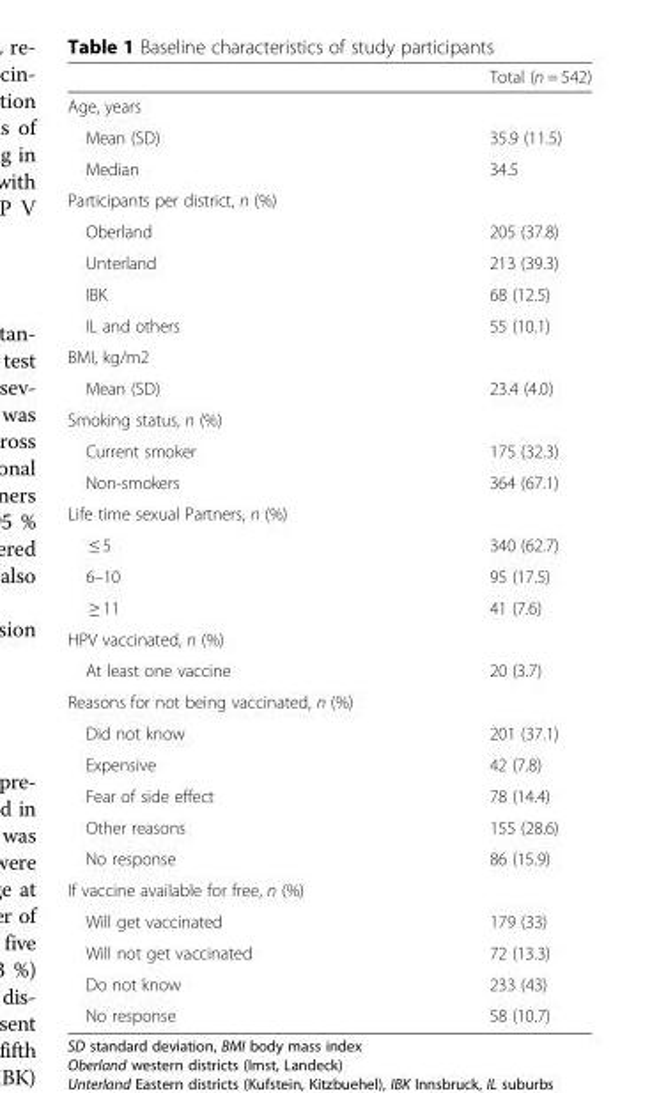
<table><thead><tr><td></td><td>Total (n = 542)</td></tr></thead><tbody><tr><td colspan="2">Age, years</td></tr><tr><td>Mean (SD)</td><td>35.9 (11.5)</td></tr><tr><td>Median</td><td>34.5</td></tr><tr><td colspan="2">Participants per district, n (%)</td></tr><tr><td>Oberland</td><td>205 (37.8)</td></tr><tr><td>Unterland</td><td>213 (39.3)</td></tr><tr><td>IBK</td><td>68 (12.5)</td></tr><tr><td>IL and others</td><td>55 (10.1)</td></tr><tr><td colspan="2">BMI, kg/m2</td></tr><tr><td>Mean (SD)</td><td>23.4 (4.0)</td></tr><tr><td colspan="2">Smoking status, n (%)</td></tr><tr><td>Current smoker</td><td>175 (32.3)</td></tr><tr><td>Non-smokers</td><td>364 (67.1)</td></tr><tr><td colspan="2">Life time sexual Partners, n (%)</td></tr><tr><td>≤ 5</td><td>340 (62.7)</td></tr><tr><td>6–10</td><td>95 (17.5)</td></tr><tr><td>≥ 11</td><td>41 (7.6)</td></tr><tr><td colspan="2">HPV vaccinated, n (%)</td></tr><tr><td>At least one vaccine</td><td>20 (3.7)</td></tr><tr><td colspan="2">Reasons for not being vaccinated, n (%)</td></tr><tr><td>Did not know</td><td>201 (37.1)</td></tr><tr><td>Expensive</td><td>42 (7.8)</td></tr><tr><td>Fear of side effect</td><td>78 (14.4)</td></tr><tr><td>Other reasons</td><td>155 (28.6)</td></tr><tr><td>No response</td><td>86 (15.9)</td></tr><tr><td colspan="2">If vaccine available for free, n (%)</td></tr><tr><td>Will get vaccinated</td><td>179 (33)</td></tr><tr><td>Will not get vaccinated</td><td>72 (13.3)</td></tr><tr><td>Do not know</td><td>233 (43)</td></tr><tr><td>No response</td><td>58 (10.7)</td></tr></tbody></table>